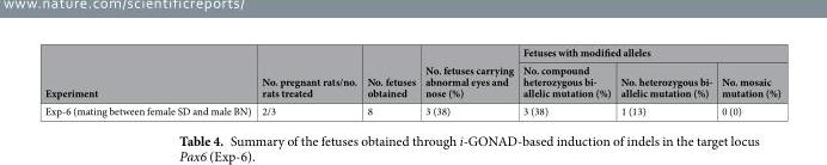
<table><thead><tr><td rowspan="2">Experiment</td><td rowspan="2">No. pregnant rats/no. rats treated</td><td rowspan="2">No. fetuses obtained</td><td rowspan="2">No. fetuses carrying abnormal eyes and nose (%)</td><td colspan="3">Fetuses with modified alleles</td></tr><tr><td>No. compound heterozygous bi- allelic mutation (%)</td><td>No. heterozygous bi- allelic mutation (%)</td><td>No. mosaic mutation (%)</td></tr></thead><tbody><tr><td>Exp-6 (mating between female SD and male BN)</td><td>2/3</td><td>8</td><td>3 (38)</td><td>3 (38)</td><td>1 (13)</td><td>0 (0)</td></tr></tbody></table>